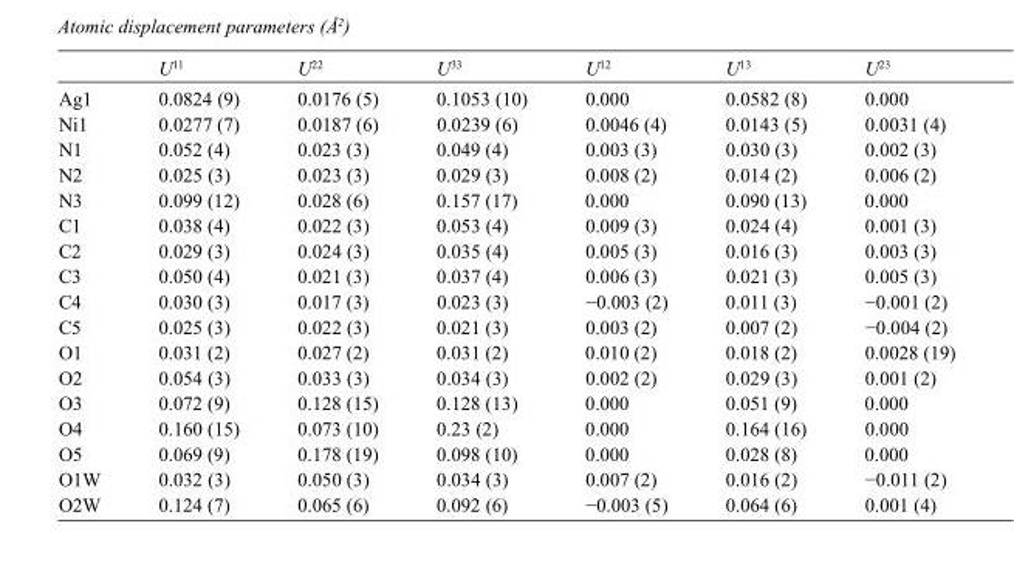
<table><thead><tr><td></td><td>U<sup>11</sup></td><td>U<sup>22</sup></td><td>U<sup>33</sup></td><td>U<sup>12</sup></td><td>U<sup>13</sup></td><td>U<sup>23</sup></td></tr></thead><tbody><tr><td>Ag1</td><td>0.0824 (9)</td><td>0.0176 (5)</td><td>0.1053 (10)</td><td>0.000</td><td>0.0582 (8)</td><td>0.000</td></tr><tr><td>Ni1</td><td>0.0277 (7)</td><td>0.0187 (6)</td><td>0.0239 (6)</td><td>0.0046 (4)</td><td>0.0143 (5)</td><td>0.0031 (4)</td></tr><tr><td>N1</td><td>0.052 (4)</td><td>0.023 (3)</td><td>0.049 (4)</td><td>0.003 (3)</td><td>0.030 (3)</td><td>0.002 (3)</td></tr><tr><td>N2</td><td>0.025 (3)</td><td>0.023 (3)</td><td>0.029 (3)</td><td>0.008 (2)</td><td>0.014 (2)</td><td>0.006 (2)</td></tr><tr><td>N3</td><td>0.099 (12)</td><td>0.028 (6)</td><td>0.157 (17)</td><td>0.000</td><td>0.090 (13)</td><td>0.000</td></tr><tr><td>C1</td><td>0.038 (4)</td><td>0.022 (3)</td><td>0.053 (4)</td><td>0.009 (3)</td><td>0.024 (4)</td><td>0.001 (3)</td></tr><tr><td>C2</td><td>0.029 (3)</td><td>0.024 (3)</td><td>0.035 (4)</td><td>0.005 (3)</td><td>0.016 (3)</td><td>0.003 (3)</td></tr><tr><td>C3</td><td>0.050 (4)</td><td>0.021 (3)</td><td>0.037 (4)</td><td>0.006 (3)</td><td>0.021 (3)</td><td>0.005 (3)</td></tr><tr><td>C4</td><td>0.030 (3)</td><td>0.017 (3)</td><td>0.023 (3)</td><td>−0.003 (2)</td><td>0.011 (3)</td><td>−0.001 (2)</td></tr><tr><td>C5</td><td>0.025 (3)</td><td>0.022 (3)</td><td>0.021 (3)</td><td>0.003 (2)</td><td>0.007 (2)</td><td>−0.004 (2)</td></tr><tr><td>O1</td><td>0.031 (2)</td><td>0.027 (2)</td><td>0.031 (2)</td><td>0.010 (2)</td><td>0.018 (2)</td><td>0.0028 (19)</td></tr><tr><td>O2</td><td>0.054 (3)</td><td>0.033 (3)</td><td>0.034 (3)</td><td>0.002 (2)</td><td>0.029 (3)</td><td>0.001 (2)</td></tr><tr><td>O3</td><td>0.072 (9)</td><td>0.128 (15)</td><td>0.128 (13)</td><td>0.000</td><td>0.051 (9)</td><td>0.000</td></tr><tr><td>O4</td><td>0.160 (15)</td><td>0.073 (10)</td><td>0.23 (2)</td><td>0.000</td><td>0.164 (16)</td><td>0.000</td></tr><tr><td>O5</td><td>0.069 (9)</td><td>0.178 (19)</td><td>0.098 (10)</td><td>0.000</td><td>0.028 (8)</td><td>0.000</td></tr><tr><td>O1W</td><td>0.032 (3)</td><td>0.050 (3)</td><td>0.034 (3)</td><td>0.007 (2)</td><td>0.016 (2)</td><td>−0.011 (2)</td></tr><tr><td>O2W</td><td>0.124 (7)</td><td>0.065 (6)</td><td>0.092 (6)</td><td>−0.003 (5)</td><td>0.064 (6)</td><td>0.001 (4)</td></tr></tbody></table>